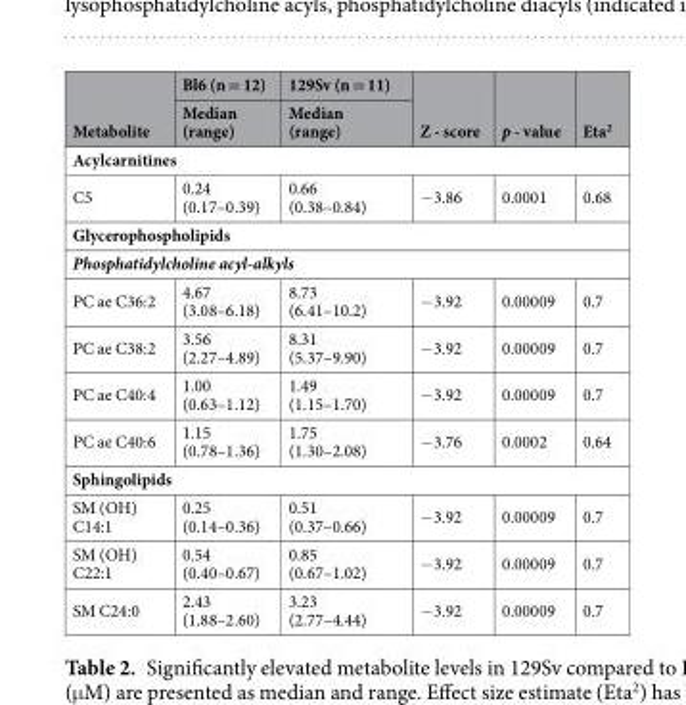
<table><thead><tr><td rowspan="2">Metabolite</td><td rowspan="2">Bl6 (n = 12) Median (range)</td><td rowspan="2">129Sv (n = 11) Median (range)</td><td rowspan="2">Z - score</td><td rowspan="2">p - value</td><td rowspan="2">Eta<sup>2</sup></td></tr><tr></tr></thead><tbody><tr><td colspan="6">Acylcarnitines</td></tr><tr><td>C5</td><td>0.24 (0.17–0.39)</td><td>0.66 (0.38–0.84)</td><td>−3.86</td><td>0.0001</td><td>0.68</td></tr><tr><td colspan="6">Glycerophospholipids</td></tr><tr><td colspan="6">Phosphatidylcholine acyl-alkyls</td></tr><tr><td>PC ae C36:2</td><td>4.67 (3.08–6.18)</td><td>8.73 (6.41–10.2)</td><td>−3.92</td><td>0.00009</td><td>0.7</td></tr><tr><td>PC ae C38:2</td><td>3.56 (2.27–4.89)</td><td>8.31 (5.37–9.90)</td><td>−3.92</td><td>0.00009</td><td>0.7</td></tr><tr><td>PC ae C40:4</td><td>1.00 (0.63–1.12)</td><td>1.49 (1.15–1.70)</td><td>−3.92</td><td>0.00009</td><td>0.7</td></tr><tr><td>PC ae C40:6</td><td>1.15 (0.78–1.36)</td><td>1.75 (1.30–2.08)</td><td>−3.76</td><td>0.0002</td><td>0.64</td></tr><tr><td colspan="6">Sphingolipids</td></tr><tr><td>SM (OH) C14:1</td><td>0.25 (0.14–0.36)</td><td>0.51 (0.37–0.66)</td><td>−3.92</td><td>0.00009</td><td>0.7</td></tr><tr><td>SM (OH) C22:1</td><td>0.54 (0.40–0.67)</td><td>0.85 (0.67–1.02)</td><td>−3.92</td><td>0.00009</td><td>0.7</td></tr><tr><td>SM C24:0</td><td>2.43 (1.88–2.60)</td><td>3.23 (2.77–4.44)</td><td>−3.92</td><td>0.00009</td><td>0.7</td></tr></tbody></table>